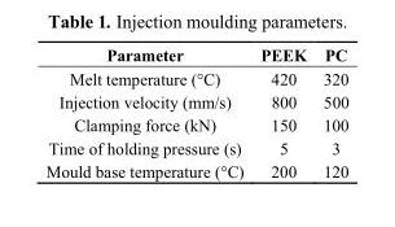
<table><thead><tr><td>Parameter</td><td>PEEK</td><td>PC</td></tr></thead><tbody><tr><td>Melt temperature (°C)</td><td>420</td><td>320</td></tr><tr><td>Injection velocity (mm/s)</td><td>800</td><td>500</td></tr><tr><td>Clamping force (kN)</td><td>150</td><td>100</td></tr><tr><td>Time of holding pressure (s)</td><td>5</td><td>3</td></tr><tr><td>Mould base temperature (°C)</td><td>200</td><td>120</td></tr></tbody></table>